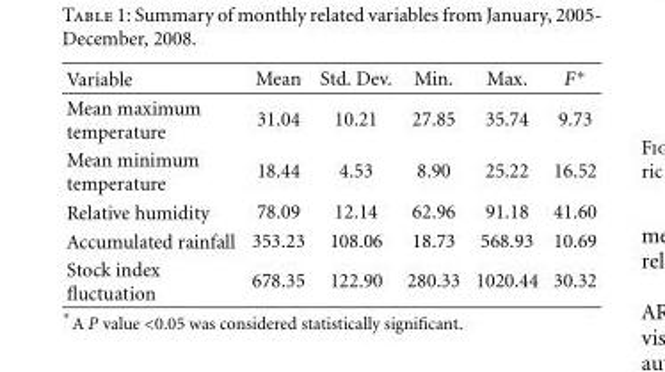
<table><thead><tr><td>Variable</td><td>Mean</td><td>Std. Dev.</td><td>Min.</td><td>Max.</td><td>F∗</td></tr></thead><tbody><tr><td>Mean maximum temperature</td><td>31.04</td><td>10.21</td><td>27.85</td><td>35.74</td><td>9.73</td></tr><tr><td>Mean minimum temperature</td><td>18.44</td><td>4.53</td><td>8.90</td><td>25.22</td><td>16.52</td></tr><tr><td>Relative humidity</td><td>78.09</td><td>12.14</td><td>62.96</td><td>91.18</td><td>41.60</td></tr><tr><td>Accumulated rainfall</td><td>353.23</td><td>108.06</td><td>18.73</td><td>568.93</td><td>10.69</td></tr><tr><td>Stock index fluctuation</td><td>678.35</td><td>122.90</td><td>280.33</td><td>1020.44</td><td>30.32</td></tr></tbody></table>